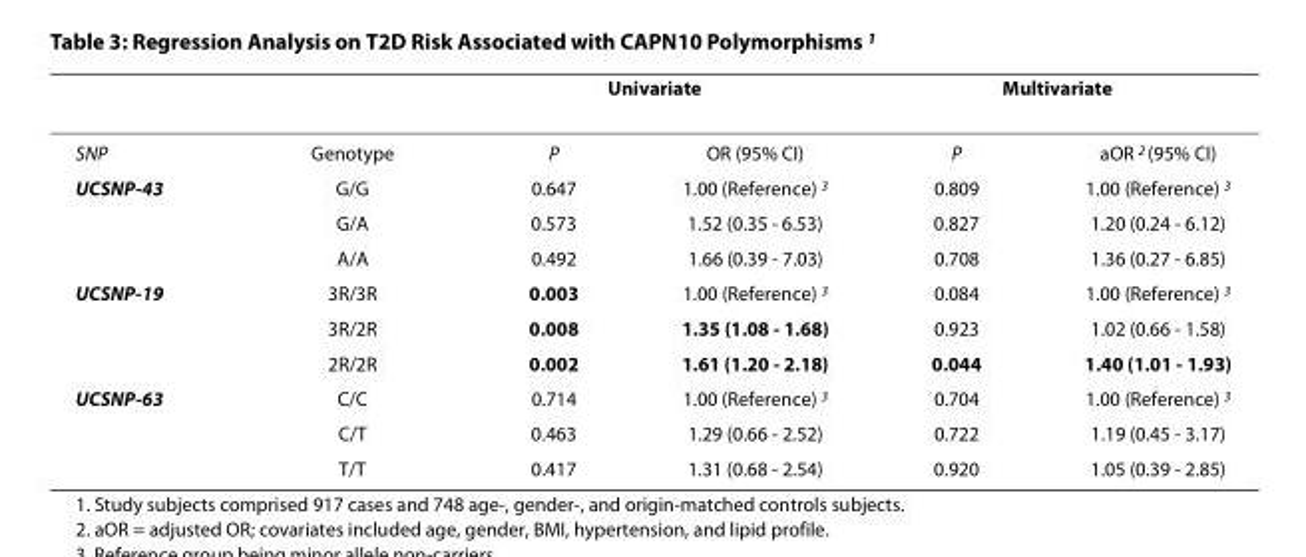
<table><thead><tr><td rowspan="2">SNP</td><td rowspan="2">Genotype</td><td colspan="2">Univariate</td><td colspan="2">Multivariate</td></tr><tr><td>P</td><td>OR (95% CI)</td><td>P</td><td>aOR <sup>2</sup> (95% CI)</td></tr></thead><tbody><tr><td rowspan="3">UCSNP-43</td><td>G/G</td><td>0.647</td><td>1.00 (Reference) <sup>3</sup></td><td>0.809</td><td>1.00 (Reference) <sup>3</sup></td></tr><tr><td>G/A</td><td>0.573</td><td>1.52 (0.35 - 6.53)</td><td>0.827</td><td>1.20 (0.24 - 6.12)</td></tr><tr><td>A/A</td><td>0.492</td><td>1.66 (0.39 - 7.03)</td><td>0.708</td><td>1.36 (0.27 - 6.85)</td></tr><tr><td rowspan="3">UCSNP-19</td><td>3R/3R</td><td>0.003</td><td>1.00 (Reference) <sup>3</sup></td><td>0.084</td><td>1.00 (Reference) <sup>3</sup></td></tr><tr><td>3R/2R</td><td>0.008</td><td>1.35 (1.08 - 1.68)</td><td>0.923</td><td>1.02 (0.66 - 1.58)</td></tr><tr><td>2R/2R</td><td>0.002</td><td>1.61 (1.20 - 2.18)</td><td>0.044</td><td>1.40 (1.01 - 1.93)</td></tr><tr><td rowspan="3">UCSNP-63</td><td>C/C</td><td>0.714</td><td>1.00 (Reference) <sup>3</sup></td><td>0.704</td><td>1.00 (Reference) <sup>3</sup></td></tr><tr><td>C/T</td><td>0.463</td><td>1.29 (0.66 - 2.52)</td><td>0.722</td><td>1.19 (0.45 - 3.17)</td></tr><tr><td>T/T</td><td>0.417</td><td>1.31 (0.68 - 2.54)</td><td>0.920</td><td>1.05 (0.39 - 2.85)</td></tr></tbody></table>